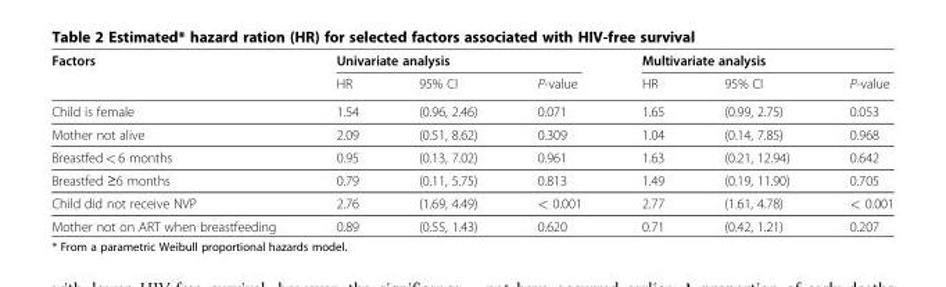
<table><thead><tr><td rowspan="2">Factors</td><td colspan="3">Univariate analysis</td><td colspan="3">Multivariate analysis</td></tr><tr><td>HR</td><td>95% CI</td><td>P-value</td><td>HR</td><td>95% CI</td><td>P-value</td></tr></thead><tbody><tr><td>Child is female</td><td>1.54</td><td>(0.96, 2.46)</td><td>0.071</td><td>1.65</td><td>(0.99, 2.75)</td><td>0.053</td></tr><tr><td>Mother not alive</td><td>2.09</td><td>(0.51, 8.62)</td><td>0.309</td><td>1.04</td><td>(0.14, 7.85)</td><td>0.968</td></tr><tr><td>Breastfed &lt; 6 months</td><td>0.95</td><td>(0.13, 7.02)</td><td>0.961</td><td>1.63</td><td>(0.21, 12.94)</td><td>0.642</td></tr><tr><td>Breastfed ≥6 months</td><td>0.79</td><td>(0.11, 5.75)</td><td>0.813</td><td>1.49</td><td>(0.19, 11.90)</td><td>0.705</td></tr><tr><td>Child did not receive NVP</td><td>2.76</td><td>(1.69, 4.49)</td><td>&lt; 0.001</td><td>2.77</td><td>(1.61, 4.78)</td><td>&lt; 0.001</td></tr><tr><td>Mother not on ART when breastfeeding</td><td>0.89</td><td>(0.55, 1.43)</td><td>0.620</td><td>0.71</td><td>(0.42, 1.21)</td><td>0.207</td></tr></tbody></table>